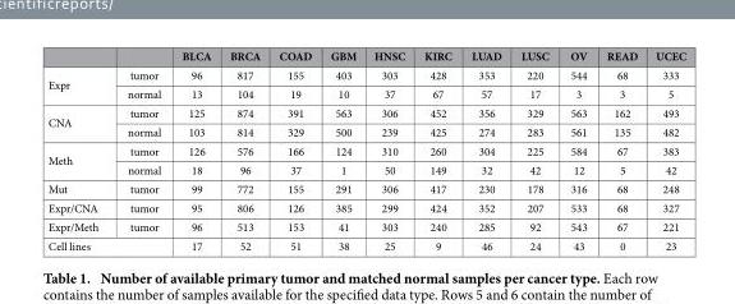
<table><thead><tr><td></td><td></td><td>BLCA</td><td>BRCA</td><td>COAD</td><td>GBM</td><td>HNSC</td><td>KIRC</td><td>LUAD</td><td>LUSC</td><td>OV</td><td>READ</td><td>UCEC</td></tr></thead><tbody><tr><td rowspan="2">Expr</td><td>tumor</td><td>96</td><td>817</td><td>155</td><td>403</td><td>303</td><td>428</td><td>353</td><td>220</td><td>544</td><td>68</td><td>333</td></tr><tr><td>normal</td><td>13</td><td>104</td><td>19</td><td>10</td><td>37</td><td>67</td><td>57</td><td>17</td><td>3</td><td>3</td><td>5</td></tr><tr><td rowspan="2">CNA</td><td>tumor</td><td>125</td><td>874</td><td>391</td><td>563</td><td>306</td><td>452</td><td>356</td><td>329</td><td>563</td><td>162</td><td>493</td></tr><tr><td>normal</td><td>103</td><td>814</td><td>329</td><td>500</td><td>239</td><td>425</td><td>274</td><td>283</td><td>561</td><td>135</td><td>482</td></tr><tr><td rowspan="2">Meth</td><td>tumor</td><td>126</td><td>576</td><td>166</td><td>124</td><td>310</td><td>260</td><td>304</td><td>225</td><td>584</td><td>67</td><td>383</td></tr><tr><td>normal</td><td>18</td><td>96</td><td>37</td><td>1</td><td>50</td><td>149</td><td>32</td><td>42</td><td>12</td><td>5</td><td>42</td></tr><tr><td>Mut</td><td>tumor</td><td>99</td><td>772</td><td>155</td><td>291</td><td>306</td><td>417</td><td>230</td><td>178</td><td>316</td><td>68</td><td>248</td></tr><tr><td>Expr/CNA</td><td>tumor</td><td>95</td><td>806</td><td>126</td><td>385</td><td>299</td><td>424</td><td>352</td><td>207</td><td>533</td><td>68</td><td>327</td></tr><tr><td>Expr/Meth</td><td>tumor</td><td>96</td><td>513</td><td>153</td><td>41</td><td>303</td><td>240</td><td>285</td><td>92</td><td>543</td><td>67</td><td>221</td></tr><tr><td colspan="2">Cell lines</td><td>17</td><td>52</td><td>51</td><td>38</td><td>25</td><td>9</td><td>46</td><td>24</td><td>43</td><td>0</td><td>23</td></tr></tbody></table>